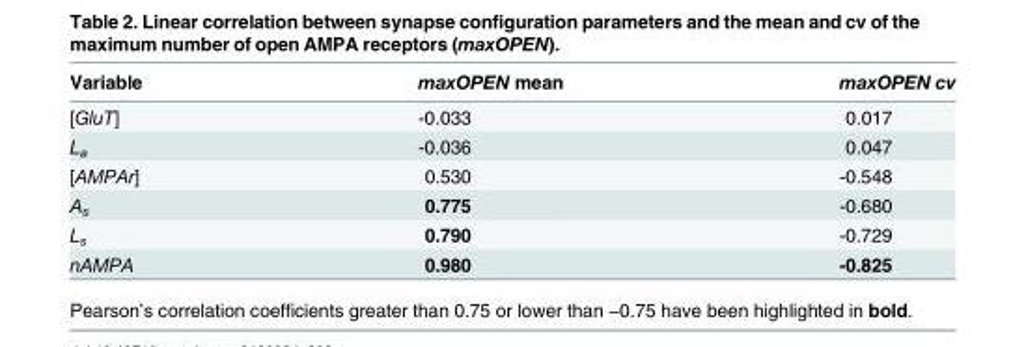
<table><thead><tr><td>Variable</td><td>maxOPEN mean</td><td>maxOPEN cv</td></tr></thead><tbody><tr><td>[GluT]</td><td>-0.033</td><td>0.017</td></tr><tr><td>L<sub>a</sub></td><td>-0.036</td><td>0.047</td></tr><tr><td>[AMPAr]</td><td>0.530</td><td>-0.548</td></tr><tr><td>A<sub>s</sub></td><td>0.775</td><td>-0.680</td></tr><tr><td>L<sub>s</sub></td><td>0.790</td><td>-0.729</td></tr><tr><td>nAMPA</td><td>0.980</td><td>-0.825</td></tr></tbody></table>